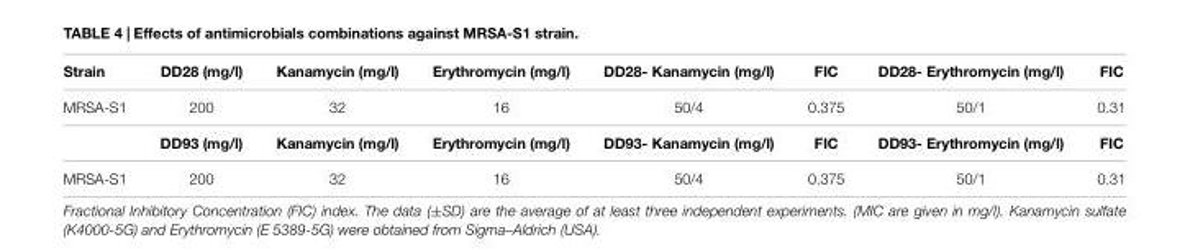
<table><thead><tr><td>Strain</td><td>DD28 (mg/l)</td><td>Kanamycin (mg/l)</td><td>Erythromycin (mg/l)</td><td>DD28- Kanamycin (mg/l)</td><td>FIC</td><td>DD28- Erythromycin (mg/l)</td><td>FIC</td></tr></thead><tbody><tr><td rowspan="2">MRSA-S1</td><td>200</td><td>32</td><td>16</td><td>50/4</td><td>0.375</td><td>50/1</td><td>0.31</td></tr><tr><td>DD93 (mg/l)</td><td>Kanamycin (mg/l)</td><td>Erythromycin (mg/l)</td><td>DD93- Kanamycin (mg/l)</td><td>FIC</td><td>DD93- Erythromycin (mg/l)</td><td>FIC</td></tr><tr><td>MRSA-S1</td><td>200</td><td>32</td><td>16</td><td>50/4</td><td>0.375</td><td>50/1</td><td>0.31</td></tr></tbody></table>